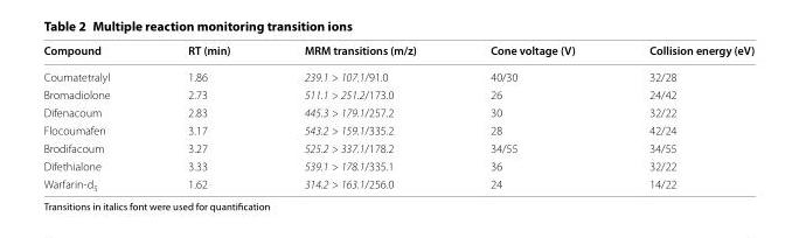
<table><thead><tr><td>Compound</td><td>RT (min)</td><td>MRM transitions (m/z)</td><td>Cone voltage (V)</td><td>Collision energy (eV)</td></tr></thead><tbody><tr><td>Coumatetralyl</td><td>1.86</td><td>239.1 &gt; 107.1/91.0</td><td>40/30</td><td>32/28</td></tr><tr><td>Bromadiolone</td><td>2.73</td><td>511.1 &gt; 251.2/173.0</td><td>26</td><td>24/42</td></tr><tr><td>Difenacoum</td><td>2.83</td><td>445.3 &gt; 179.1/257.2</td><td>30</td><td>32/22</td></tr><tr><td>Flocoumafen</td><td>3.17</td><td>543.2 &gt; 159.1/335.2</td><td>28</td><td>42/24</td></tr><tr><td>Brodifacoum</td><td>3.27</td><td>525.2 &gt; 337.1/178.2</td><td>34/55</td><td>34/55</td></tr><tr><td>Difethialone</td><td>3.33</td><td>539.1 &gt; 178.1/335.1</td><td>36</td><td>32/22</td></tr><tr><td>Warfarin-d<sub>5</sub></td><td>1.62</td><td>314.2 &gt; 163.1/256.0</td><td>24</td><td>14/22</td></tr></tbody></table>